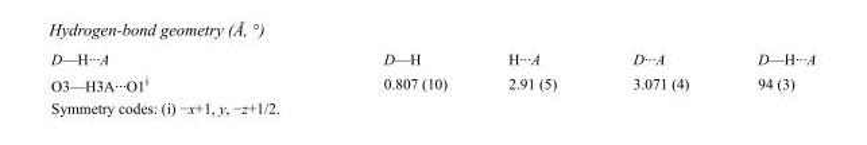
<table><tbody><tr><td>D—H···A</td><td>D—H</td><td>H···A</td><td>D···A</td><td>D—H···A</td></tr><tr><td>O3—H3A···O1<sup>i</sup></td><td>0.807 (10)</td><td>2.91 (5)</td><td>3.071 (4)</td><td>94 (3)</td></tr></tbody></table>